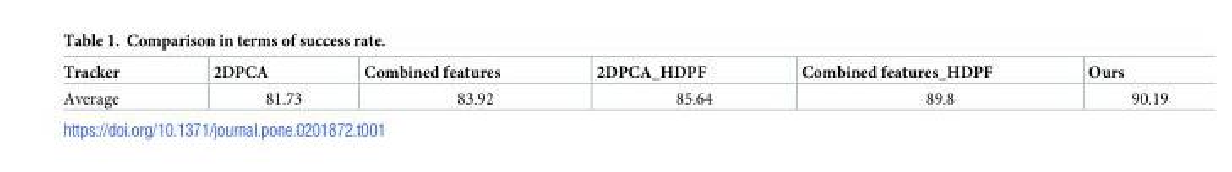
<table><thead><tr><td>Tracker</td><td>2DPCA</td><td>Combined features</td><td>2DPCA_HDPF</td><td>Combined features_HDPF</td><td>Ours</td></tr></thead><tbody><tr><td>Average</td><td>81.73</td><td>83.92</td><td>85.64</td><td>89.8</td><td>90.19</td></tr></tbody></table>